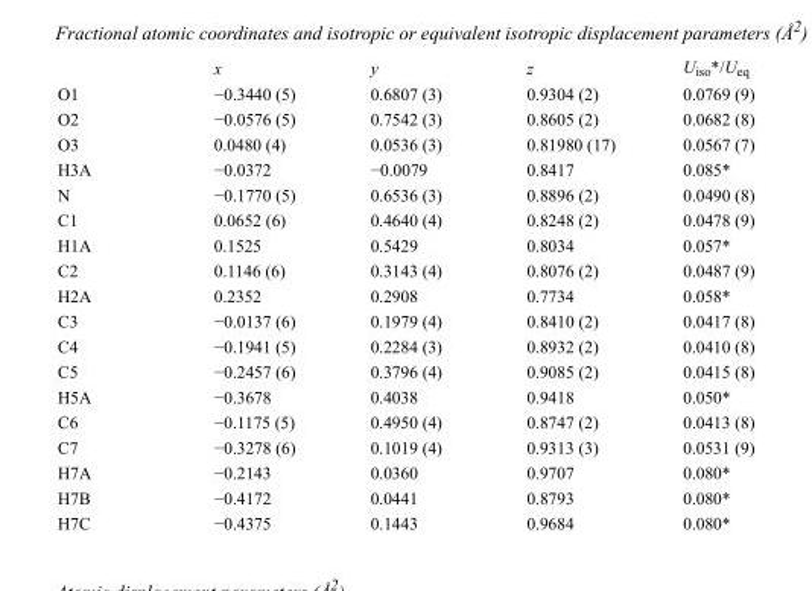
<table><thead><tr><td></td><td>x</td><td>y</td><td>z</td><td>U<sub>iso</sub>*/U<sub>eq</sub></td></tr></thead><tbody><tr><td>O1</td><td>−0.3440 (5)</td><td>0.6807 (3)</td><td>0.9304 (2)</td><td>0.0769 (9)</td></tr><tr><td>O2</td><td>−0.0576 (5)</td><td>0.7542 (3)</td><td>0.8605 (2)</td><td>0.0682 (8)</td></tr><tr><td>O3</td><td>0.0480 (4)</td><td>0.0536 (3)</td><td>0.81980 (17)</td><td>0.0567 (7)</td></tr><tr><td>H3A</td><td>−0.0372</td><td>−0.0079</td><td>0.8417</td><td>0.085*</td></tr><tr><td>N</td><td>−0.1770 (5)</td><td>0.6536 (3)</td><td>0.8896 (2)</td><td>0.0490 (8)</td></tr><tr><td>C1</td><td>0.0652 (6)</td><td>0.4640 (4)</td><td>0.8248 (2)</td><td>0.0478 (9)</td></tr><tr><td>H1A</td><td>0.1525</td><td>0.5429</td><td>0.8034</td><td>0.057*</td></tr><tr><td>C2</td><td>0.1146 (6)</td><td>0.3143 (4)</td><td>0.8076 (2)</td><td>0.0487 (9)</td></tr><tr><td>H2A</td><td>0.2352</td><td>0.2908</td><td>0.7734</td><td>0.058*</td></tr><tr><td>C3</td><td>−0.0137 (6)</td><td>0.1979 (4)</td><td>0.8410 (2)</td><td>0.0417 (8)</td></tr><tr><td>C4</td><td>−0.1941 (5)</td><td>0.2284 (3)</td><td>0.8932 (2)</td><td>0.0410 (8)</td></tr><tr><td>C5</td><td>−0.2457 (6)</td><td>0.3796 (4)</td><td>0.9085 (2)</td><td>0.0415 (8)</td></tr><tr><td>H5A</td><td>−0.3678</td><td>0.4038</td><td>0.9418</td><td>0.050*</td></tr><tr><td>C6</td><td>−0.1175 (5)</td><td>0.4950 (4)</td><td>0.8747 (2)</td><td>0.0413 (8)</td></tr><tr><td>C7</td><td>−0.3278 (6)</td><td>0.1019 (4)</td><td>0.9313 (3)</td><td>0.0531 (9)</td></tr><tr><td>H7A</td><td>−0.2143</td><td>0.0360</td><td>0.9707</td><td>0.080*</td></tr><tr><td>H7B</td><td>−0.4172</td><td>0.0441</td><td>0.8793</td><td>0.080*</td></tr><tr><td>H7C</td><td>−0.4375</td><td>0.1443</td><td>0.9684</td><td>0.080*</td></tr></tbody></table>